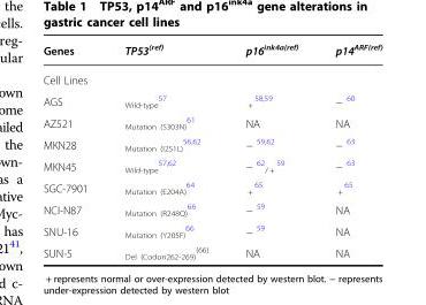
<table><thead><tr><td>Genes</td><td>TP53<sup>(ref)</sup></td><td>p16<sup>ink4a(ref)</sup></td><td>p14<sup>ARF(ref)</sup></td></tr></thead><tbody><tr><td colspan="4">Cell Lines</td></tr><tr><td>AGS</td><td><sub>Wild-type</sub> <sup>57</sup></td><td><sub>+</sub> <sup>58,59</sup></td><td>− <sup>60</sup></td></tr><tr><td>AZ521</td><td><sub>Mutation (S303N)</sub> <sup>61</sup></td><td>NA</td><td>NA</td></tr><tr><td>MKN28</td><td><sub>Mutation (I251L)</sub> <sup>56,62</sup></td><td>− <sup>59,62</sup></td><td>− <sup>63</sup></td></tr><tr><td>MKN45</td><td><sub>Wild-type</sub> <sup>57,62</sup></td><td>− <sup>62</sup> <sub>/ +</sub> <sup>59</sup></td><td>− <sup>63</sup></td></tr><tr><td>SGC-7901</td><td><sub>Mutation (E204A)</sub> <sup>64</sup></td><td><sub>+</sub> <sup>65</sup></td><td><sub>+</sub> <sup>65</sup></td></tr><tr><td>NCI-N87</td><td><sub>Mutation (R248Q)</sub> <sup>66</sup></td><td>− <sup>59</sup></td><td>NA</td></tr><tr><td>SNU-16</td><td><sub>Mutation (Y205F)</sub> <sup>66</sup></td><td>− <sup>59</sup></td><td>NA</td></tr><tr><td>SUN-5</td><td><sub>Del (Codon262-269)</sub> <sup>(66)</sup></td><td>NA</td><td>NA</td></tr></tbody></table>